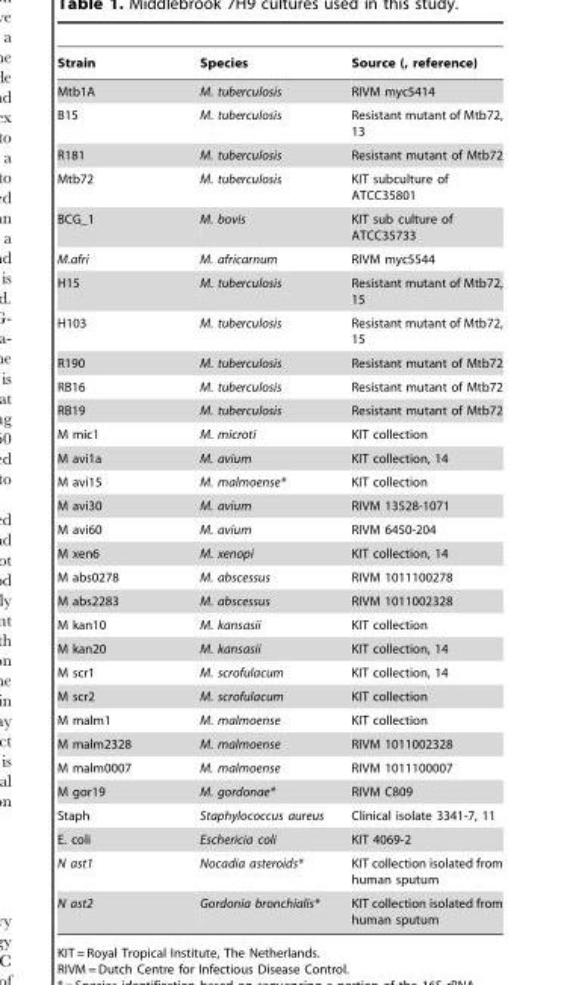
<table><thead><tr><td>Strain</td><td>Species</td><td>Source (, reference)</td></tr></thead><tbody><tr><td>Mtb1A</td><td>M. tuberculosis</td><td>RIVM myc5414</td></tr><tr><td>B15</td><td>M. tuberculosis</td><td>Resistant mutant of Mtb72, 13</td></tr><tr><td>R181</td><td>M. tuberculosis</td><td>Resistant mutant of Mtb72</td></tr><tr><td>Mtb72</td><td>M. tuberculosis</td><td>KIT subculture of ATCC35801</td></tr><tr><td>BCG_1</td><td>M. bovis</td><td>KIT sub culture of ATCC35733</td></tr><tr><td>M.afri</td><td>M. africarnum</td><td>RIVM myc5544</td></tr><tr><td>H15</td><td>M. tuberculosis</td><td>Resistant mutant of Mtb72, 15</td></tr><tr><td>H103</td><td>M. tuberculosis</td><td>Resistant mutant of Mtb72, 15</td></tr><tr><td>R190</td><td>M. tuberculosis</td><td>Resistant mutant of Mtb72</td></tr><tr><td>RB16</td><td>M. tuberculosis</td><td>Resistant mutant of Mtb72</td></tr><tr><td>RB19</td><td>M. tuberculosis</td><td>Resistant mutant of Mtb72</td></tr><tr><td>M mic1</td><td>M. microti</td><td>KIT collection</td></tr><tr><td>M avi1a</td><td>M. avium</td><td>KIT collection, 14</td></tr><tr><td>M avi15</td><td>M. malmoense*</td><td>KIT collection</td></tr><tr><td>M avi30</td><td>M. avium</td><td>RIVM 13528-1071</td></tr><tr><td>M avi60</td><td>M. avium</td><td>RIVM 6450-204</td></tr><tr><td>M xen6</td><td>M. xenopi</td><td>KIT collection, 14</td></tr><tr><td>M abs0278</td><td>M. abscessus</td><td>RIVM 1011100278</td></tr><tr><td>M abs2283</td><td>M. abscessus</td><td>RIVM 1011002328</td></tr><tr><td>M kan10</td><td>M. kansasii</td><td>KIT collection</td></tr><tr><td>M kan20</td><td>M. kansasii</td><td>KIT collection, 14</td></tr><tr><td>M scr1</td><td>M. scrofulacum</td><td>KIT collection, 14</td></tr><tr><td>M scr2</td><td>M. scrofulacum</td><td>KIT collection</td></tr><tr><td>M malm1</td><td>M. malmoense</td><td>KIT collection</td></tr><tr><td>M malm2328</td><td>M. malmoense</td><td>RIVM 1011002328</td></tr><tr><td>M malm0007</td><td>M. malmoense</td><td>RIVM 1011100007</td></tr><tr><td>M gor19</td><td>M. gordonae*</td><td>RIVM C809</td></tr><tr><td>Staph</td><td>Staphylococcus aureus</td><td>Clinical isolate 3341-7, 11</td></tr><tr><td>E. coli</td><td>Eschericia coli</td><td>KIT 4069-2</td></tr><tr><td>N ast1</td><td>Nocadia asteroids*</td><td>KIT collection isolated from human sputum</td></tr><tr><td>N ast2</td><td>Gordonia bronchialis*</td><td>KIT collection isolated from human sputum</td></tr></tbody></table>